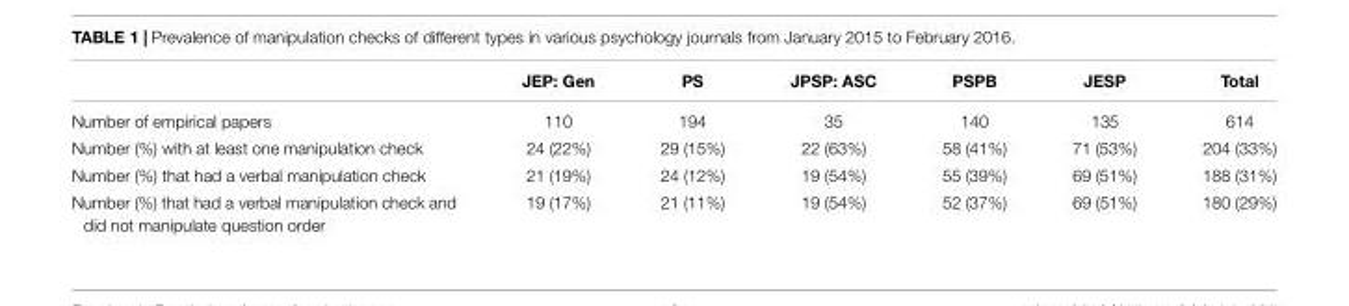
<table><thead><tr><td></td><td>JEP: Gen</td><td>PS</td><td>JPSP: ASC</td><td>PSPB</td><td>JESP</td><td>Total</td></tr></thead><tbody><tr><td>Number of empirical papers</td><td>110</td><td>194</td><td>35</td><td>140</td><td>135</td><td>614</td></tr><tr><td>Number (%) with at least one manipulation check</td><td>24 (22%)</td><td>29 (15%)</td><td>22 (63%)</td><td>58 (41%)</td><td>71 (53%)</td><td>204 (33%)</td></tr><tr><td>Number (%) that had a verbal manipulation check</td><td>21 (19%)</td><td>24 (12%)</td><td>19 (54%)</td><td>55 (39%)</td><td>69 (51%)</td><td>188 (31%)</td></tr><tr><td>Number (%) that had a verbal manipulation check and did not manipulate question order</td><td>19 (17%)</td><td>21 (11%)</td><td>19 (54%)</td><td>52 (37%)</td><td>69 (51%)</td><td>180 (29%)</td></tr></tbody></table>